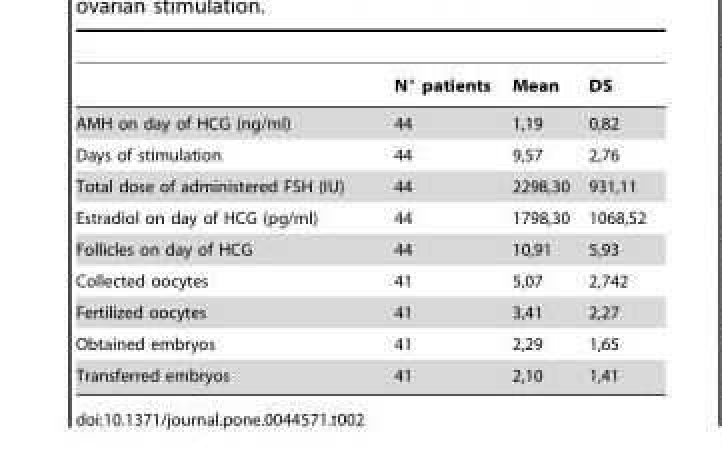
<table><thead><tr><td></td><td>N° patients</td><td>Mean</td><td>DS</td></tr></thead><tbody><tr><td>AMH on day of HCG (ng/ml)</td><td>44</td><td>1,19</td><td>0,82</td></tr><tr><td>Days of stimulation</td><td>44</td><td>9,57</td><td>2,76</td></tr><tr><td>Total dose of administered FSH (IU)</td><td>44</td><td>2298,30</td><td>931,11</td></tr><tr><td>Estradiol on day of HCG (pg/ml)</td><td>44</td><td>1798,30</td><td>1068,52</td></tr><tr><td>Follicles on day of HCG</td><td>44</td><td>10,91</td><td>5,93</td></tr><tr><td>Collected oocytes</td><td>41</td><td>5,07</td><td>2,742</td></tr><tr><td>Fertilized oocytes</td><td>41</td><td>3,41</td><td>2,27</td></tr><tr><td>Obtained embryos</td><td>41</td><td>2,29</td><td>1,65</td></tr><tr><td>Transferred embryos</td><td>41</td><td>2,10</td><td>1,41</td></tr></tbody></table>